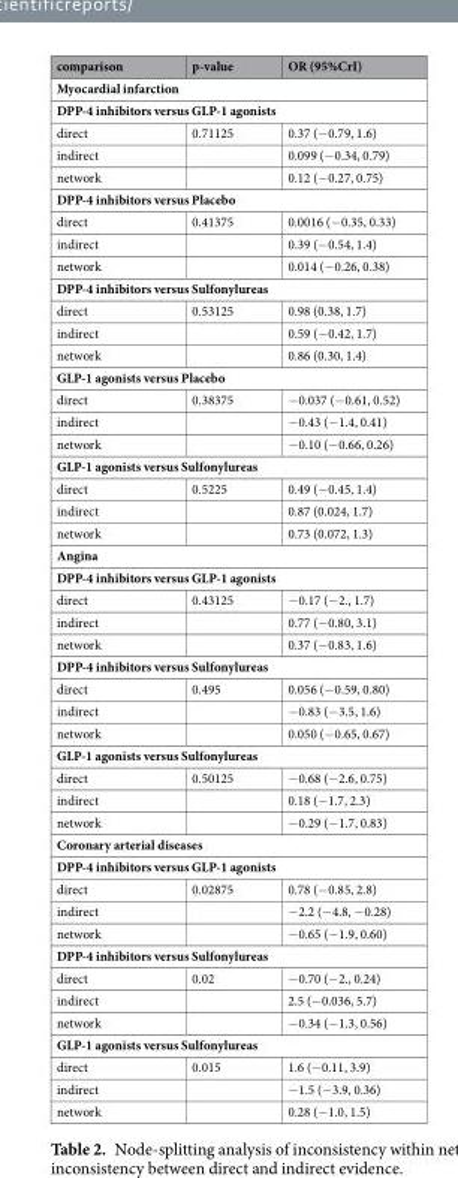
<table><thead><tr><td>comparison</td><td>p-value</td><td>OR (95%CrI)</td></tr></thead><tbody><tr><td colspan="3">Myocardial infarction</td></tr><tr><td colspan="3">DPP-4 inhibitors versus GLP-1 agonists</td></tr><tr><td>direct</td><td>0.71125</td><td>0.37 (−0.79, 1.6)</td></tr><tr><td>indirect</td><td></td><td>0.099 (−0.34, 0.79)</td></tr><tr><td>network</td><td></td><td>0.12 (−0.27, 0.75)</td></tr><tr><td colspan="3">DPP-4 inhibitors versus Placebo</td></tr><tr><td>direct</td><td>0.41375</td><td>0.0016 (−0.35, 0.33)</td></tr><tr><td>indirect</td><td></td><td>0.39 (−0.54, 1.4)</td></tr><tr><td>network</td><td></td><td>0.014 (−0.26, 0.38)</td></tr><tr><td colspan="3">DPP-4 inhibitors versus Sulfonylureas</td></tr><tr><td>direct</td><td>0.53125</td><td>0.98 (0.38, 1.7)</td></tr><tr><td>indirect</td><td></td><td>0.59 (−0.42, 1.7)</td></tr><tr><td>network</td><td></td><td>0.86 (0.30, 1.4)</td></tr><tr><td colspan="3">GLP-1 agonists versus Placebo</td></tr><tr><td>direct</td><td>0.38375</td><td>−0.037 (−0.61, 0.52)</td></tr><tr><td>indirect</td><td></td><td>−0.43 (−1.4, 0.41)</td></tr><tr><td>network</td><td></td><td>−0.10 (−0.66, 0.26)</td></tr><tr><td colspan="3">GLP-1 agonists versus Sulfonylureas</td></tr><tr><td>direct</td><td>0.5225</td><td>0.49 (−0.45, 1.4)</td></tr><tr><td>indirect</td><td></td><td>0.87 (0.024, 1.7)</td></tr><tr><td>network</td><td></td><td>0.73 (0.072, 1.3)</td></tr><tr><td colspan="3">Angina</td></tr><tr><td colspan="3">DPP-4 inhibitors versus GLP-1 agonists</td></tr><tr><td>direct</td><td>0.43125</td><td>−0.17 (−2., 1.7)</td></tr><tr><td>indirect</td><td></td><td>0.77 (−0.80, 3.1)</td></tr><tr><td>network</td><td></td><td>0.37 (−0.83, 1.6)</td></tr><tr><td colspan="3">DPP-4 inhibitors versus Sulfonylureas</td></tr><tr><td>direct</td><td>0.495</td><td>0.056 (−0.59, 0.80)</td></tr><tr><td>indirect</td><td></td><td>−0.83 (−3.5, 1.6)</td></tr><tr><td>network</td><td></td><td>0.050 (−0.65, 0.67)</td></tr><tr><td colspan="3">GLP-1 agonists versus Sulfonylureas</td></tr><tr><td>direct</td><td>0.50125</td><td>−0.68 (−2.6, 0.75)</td></tr><tr><td>indirect</td><td></td><td>0.18 (−1.7, 2.3)</td></tr><tr><td>network</td><td></td><td>−0.29 (−1.7, 0.83)</td></tr><tr><td colspan="3">Coronary arterial diseases</td></tr><tr><td colspan="3">DPP-4 inhibitors versus GLP-1 agonists</td></tr><tr><td>direct</td><td>0.02875</td><td>0.78 (−0.85, 2.8)</td></tr><tr><td>indirect</td><td></td><td>−2.2 (−4.8, −0.28)</td></tr><tr><td>network</td><td></td><td>−0.65 (−1.9, 0.60)</td></tr><tr><td colspan="3">DPP-4 inhibitors versus Sulfonylureas</td></tr><tr><td>direct</td><td>0.02</td><td>−0.70 (−2., 0.24)</td></tr><tr><td>indirect</td><td></td><td>2.5 (−0.036, 5.7)</td></tr><tr><td>network</td><td></td><td>−0.34 (−1.3, 0.56)</td></tr><tr><td colspan="3">GLP-1 agonists versus Sulfonylureas</td></tr><tr><td>direct</td><td>0.015</td><td>1.6 (−0.11, 3.9)</td></tr><tr><td>indirect</td><td></td><td>−1.5 (−3.9, 0.36)</td></tr><tr><td>network</td><td></td><td>0.28 (−1.0, 1.5)</td></tr></tbody></table>